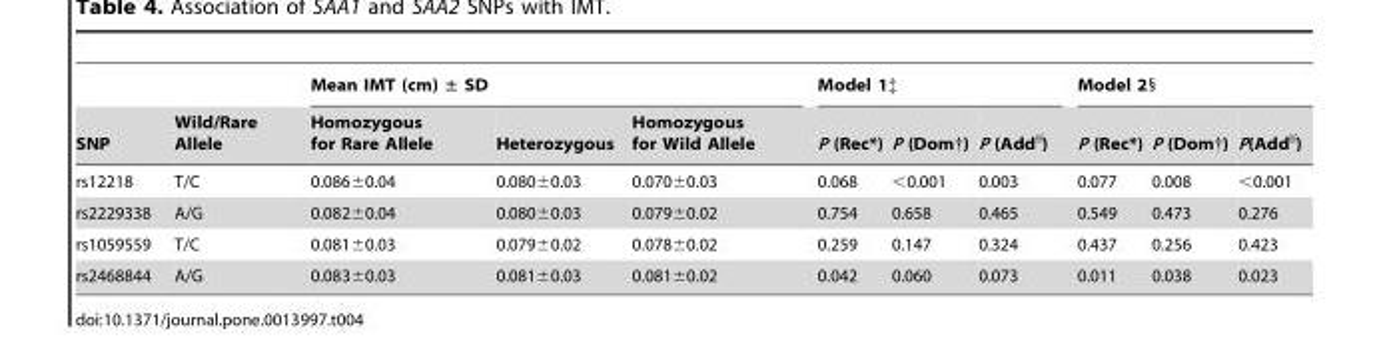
<table><thead><tr><td rowspan="2">SNP</td><td rowspan="2">Wild/Rare Allele</td><td colspan="3">Mean IMT (cm) ± SD</td><td colspan="3">Model 1‡</td><td colspan="3">Model 2§</td></tr><tr><td>Homozygous for Rare Allele</td><td>Heterozygous</td><td>Homozygous for Wild Allele</td><td>P (Rec*)</td><td>P (Dom†)</td><td>P (Add )</td><td>P (Rec*)</td><td>P (Dom†)</td><td>P(Add )</td></tr></thead><tbody><tr><td>rs12218</td><td>T/C</td><td>0.086±0.04</td><td>0.080±0.03</td><td>0.070±0.03</td><td>0.068</td><td>&lt;0.001</td><td>0.003</td><td>0.077</td><td>0.008</td><td>&lt;0.001</td></tr><tr><td>rs2229338</td><td>A/G</td><td>0.082±0.04</td><td>0.080±0.03</td><td>0.079±0.02</td><td>0.754</td><td>0.658</td><td>0.465</td><td>0.549</td><td>0.473</td><td>0.276</td></tr><tr><td>rs1059559</td><td>T/C</td><td>0.081±0.03</td><td>0.079±0.02</td><td>0.078±0.02</td><td>0.259</td><td>0.147</td><td>0.324</td><td>0.437</td><td>0.256</td><td>0.423</td></tr><tr><td>rs2468844</td><td>A/G</td><td>0.083±0.03</td><td>0.081±0.03</td><td>0.081±0.02</td><td>0.042</td><td>0.060</td><td>0.073</td><td>0.011</td><td>0.038</td><td>0.023</td></tr></tbody></table>